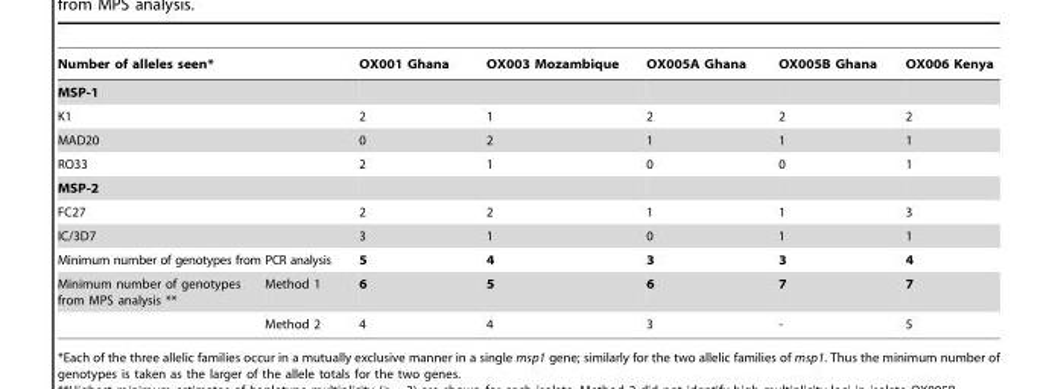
<table><thead><tr><td colspan="2">Number of alleles seen*</td><td>OX001 Ghana</td><td>OX003 Mozambique</td><td>OX005A Ghana</td><td>OX005B Ghana</td><td>OX006 Kenya</td></tr></thead><tbody><tr><td colspan="7">MSP-1</td></tr><tr><td colspan="2">K1</td><td>2</td><td>1</td><td>2</td><td>2</td><td>2</td></tr><tr><td colspan="2">MAD20</td><td>0</td><td>2</td><td>1</td><td>1</td><td>1</td></tr><tr><td colspan="2">RO33</td><td>2</td><td>1</td><td>0</td><td>0</td><td>1</td></tr><tr><td colspan="7">MSP-2</td></tr><tr><td colspan="2">FC27</td><td>2</td><td>2</td><td>1</td><td>1</td><td>3</td></tr><tr><td colspan="2">IC/3D7</td><td>3</td><td>1</td><td>0</td><td>1</td><td>1</td></tr><tr><td colspan="2">Minimum number of genotypes from PCR analysis</td><td>5</td><td>4</td><td>3</td><td>3</td><td>4</td></tr><tr><td rowspan="2">Minimum number of genotypes from MPS analysis **</td><td>Method 1</td><td>6</td><td>5</td><td>6</td><td>7</td><td>7</td></tr><tr><td>Method 2</td><td>4</td><td>4</td><td>3</td><td>-</td><td>5</td></tr></tbody></table>